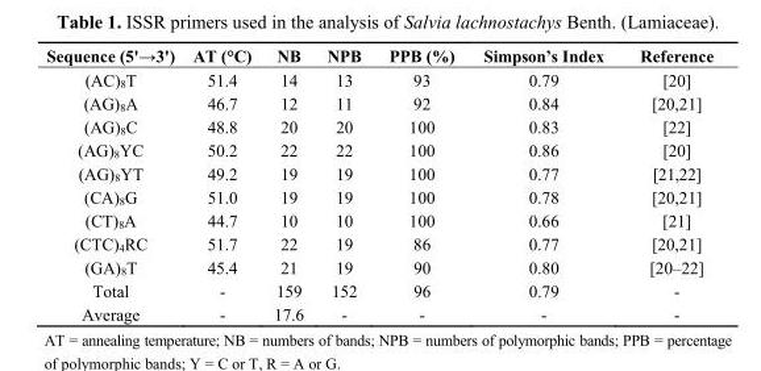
<table><thead><tr><td>Sequence (5&#x27;→3&#x27;)</td><td>AT (°C)</td><td>NB</td><td>NPB</td><td>PPB (%)</td><td>Simpson’s Index</td><td>Reference</td></tr></thead><tbody><tr><td>(AC)<sub>8</sub>T</td><td>51.4</td><td>14</td><td>13</td><td>93</td><td>0.79</td><td>[20]</td></tr><tr><td>(AG)<sub>8</sub>A</td><td>46.7</td><td>12</td><td>11</td><td>92</td><td>0.84</td><td>[20,21]</td></tr><tr><td>(AG)<sub>8</sub>C</td><td>48.8</td><td>20</td><td>20</td><td>100</td><td>0.83</td><td>[22]</td></tr><tr><td>(AG)<sub>8</sub>YC</td><td>50.2</td><td>22</td><td>22</td><td>100</td><td>0.86</td><td>[20]</td></tr><tr><td>(AG)<sub>8</sub>YT</td><td>49.2</td><td>19</td><td>19</td><td>100</td><td>0.77</td><td>[21,22]</td></tr><tr><td>(CA)<sub>8</sub>G</td><td>51.0</td><td>19</td><td>19</td><td>100</td><td>0.78</td><td>[20,21]</td></tr><tr><td>(CT)<sub>8</sub>A</td><td>44.7</td><td>10</td><td>10</td><td>100</td><td>0.66</td><td>[21]</td></tr><tr><td>(CTC)<sub>4</sub>RC</td><td>51.7</td><td>22</td><td>19</td><td>86</td><td>0.77</td><td>[20,21]</td></tr><tr><td>(GA)<sub>8</sub>T</td><td>45.4</td><td>21</td><td>19</td><td>90</td><td>0.80</td><td>[20–22]</td></tr><tr><td>Total</td><td>-</td><td>159</td><td>152</td><td>96</td><td>0.79</td><td>-</td></tr><tr><td>Average</td><td>-</td><td>17.6</td><td>-</td><td>-</td><td>-</td><td>-</td></tr></tbody></table>